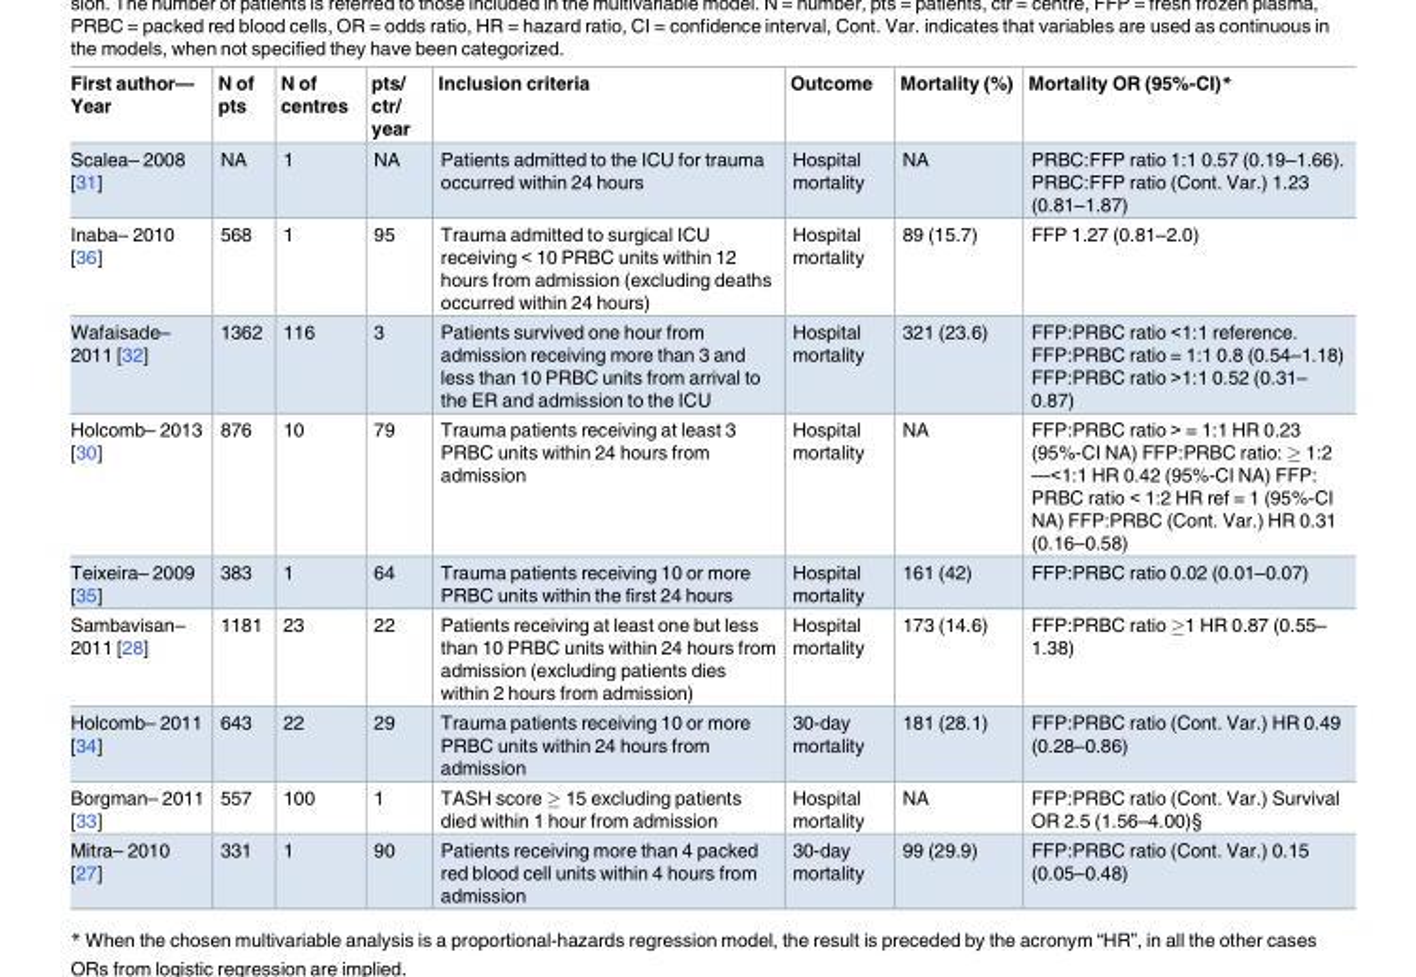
<table><thead><tr><td>First author— Year</td><td>N of pts</td><td>N of centres</td><td>pts/ ctr/ year</td><td>Inclusion criteria</td><td>Outcome</td><td>Mortality (%)</td><td>Mortality OR (95%-CI)*</td></tr></thead><tbody><tr><td>Scalea– 2008 [31]</td><td>NA</td><td>1</td><td>NA</td><td>Patients admitted to the ICU for trauma occurred within 24 hours</td><td>Hospital mortality</td><td>NA</td><td>PRBC:FFP ratio 1:1 0.57 (0.19–1.66). PRBC:FFP ratio (Cont. Var.) 1.23 (0.81–1.87)</td></tr><tr><td>Inaba– 2010 [36]</td><td>568</td><td>1</td><td>95</td><td>Trauma admitted to surgical ICU receiving &lt; 10 PRBC units within 12 hours from admission (excluding deaths occurred within 24 hours)</td><td>Hospital mortality</td><td>89 (15.7)</td><td>FFP 1.27 (0.81–2.0)</td></tr><tr><td>Wafaisade– 2011 [32]</td><td>1362</td><td>116</td><td>3</td><td>Patients survived one hour from admission receiving more than 3 and less than 10 PRBC units from arrival to the ER and admission to the ICU</td><td>Hospital mortality</td><td>321 (23.6)</td><td>FFP:PRBC ratio &lt;1:1 reference. FFP:PRBC ratio = 1:1 0.8 (0.54–1.18) FFP:PRBC ratio &gt;1:1 0.52 (0.31– 0.87)</td></tr><tr><td>Holcomb– 2013 [30]</td><td>876</td><td>10</td><td>79</td><td>Trauma patients receiving at least 3 PRBC units within 24 hours from admission</td><td>Hospital mortality</td><td>NA</td><td>FFP:PRBC ratio &gt; = 1:1 HR 0.23 (95%-CI NA) FFP:PRBC ratio: ≥ 1:2 —&lt;1:1 HR 0.42 (95%-CI NA) FFP: PRBC ratio &lt; 1:2 HR ref = 1 (95%-CI NA) FFP:PRBC (Cont. Var.) HR 0.31 (0.16–0.58)</td></tr><tr><td>Teixeira– 2009 [35]</td><td>383</td><td>1</td><td>64</td><td>Trauma patients receiving 10 or more PRBC units within the first 24 hours</td><td>Hospital mortality</td><td>161 (42)</td><td>FFP:PRBC ratio 0.02 (0.01–0.07)</td></tr><tr><td>Sambavisan– 2011 [28]</td><td>1181</td><td>23</td><td>22</td><td>Patients receiving at least one but less than 10 PRBC units within 24 hours from admission (excluding patients dies within 2 hours from admission)</td><td>Hospital mortality</td><td>173 (14.6)</td><td>FFP:PRBC ratio ≥1 HR 0.87 (0.55– 1.38)</td></tr><tr><td>Holcomb– 2011 [34]</td><td>643</td><td>22</td><td>29</td><td>Trauma patients receiving 10 or more PRBC units within 24 hours from admission</td><td>30-day mortality</td><td>181 (28.1)</td><td>FFP:PRBC ratio (Cont. Var.) HR 0.49 (0.28–0.86)</td></tr><tr><td>Borgman– 2011 [33]</td><td>557</td><td>100</td><td>1</td><td>TASH score ≥ 15 excluding patients died within 1 hour from admission</td><td>Hospital mortality</td><td>NA</td><td>FFP:PRBC ratio (Cont. Var.) Survival OR 2.5 (1.56–4.00)§</td></tr><tr><td>Mitra– 2010 [27]</td><td>331</td><td>1</td><td>90</td><td>Patients receiving more than 4 packed red blood cell units within 4 hours from admission</td><td>30-day mortality</td><td>99 (29.9)</td><td>FFP:PRBC ratio (Cont. Var.) 0.15 (0.05–0.48)</td></tr></tbody></table>